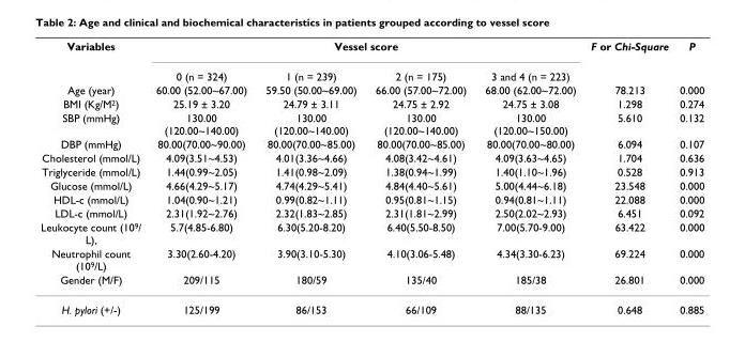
<table><thead><tr><td rowspan="14">Variables Age (year) BMI (Kg/M2) SBP (mmHg) DBP (mmHg) Cholesterol (mmol/L) Triglyceride (mmol/L) Glucose (mmol/L) HDL-c (mmol/L) LDL-c (mmol/L) Leukocyte count (109/ L), Neutrophil count (109/L) Gender (M/F)</td><td colspan="4">Vessel score</td><td rowspan="14">F or Chi-Square 78.213 1.298 5.610 6.094 1.704 0.528 23.548 22.088 6.451 63.422 69.224 26.801</td><td rowspan="14">P 0.000 0.274 0.132 0.107 0.636 0.913 0.000 0.000 0.092 0.000 0.000 0.000</td></tr><tr><td rowspan="13">0 (n = 324) 60.00 (52.00~67.00) 25.19 ± 3.20 130.00 (120.00~140.00) 80.00(70.00~90.00) 4.09(3.51~4.53) 1.44(0.99~2.05) 4.66(4.29~5.17) 1.04(0.90~1.21) 2.31(1.92~2.76) 5.7(4.85-6.80) 3.30(2.60-4.20) 209/115</td><td rowspan="13">1 (n = 239) 59.50 (50.00~69.00) 24.79 ± 3.11 130.00 (120.00~140.00) 80.00(70.00~85.00) 4.01(3.36~4.66) 1.41(0.98~2.09) 4.74(4.29~5.41) 0.99(0.82~1.11) 2.32(1.83~2.85) 6.30(5.20-8.20) 3.90(3.10-5.30) 180/59</td><td rowspan="13">2 (n = 175) 66.00 (57.00~72.00) 24.75 ± 2.92 130.00 (120.00~140.00) 80.00(70.00~85.00) 4.08(3.42~4.61) 1.38(0.94~1.99) 4.84(4.40~5.61) 0.95(0.81~1.15) 2.31(1.81~2.99) 6.40(5.50-8.50) 4.10(3.06-5.48) 135/40</td><td rowspan="13">3 and 4 (n = 223) 68.00 (62.00~72.00) 24.75 ± 3.08 130.00 (120.00~150.00) 80.00(70.00~80.00) 4.09(3.63~4.65) 1.40(1.10~1.96) 5.00(4.44~6.18) 0.94(0.81~1.11) 2.50(2.02~2.93) 7.00(5.70-9.00) 4.34(3.30-6.23) 185/38</td></tr><tr></tr><tr></tr><tr></tr><tr></tr><tr></tr><tr></tr><tr></tr><tr></tr><tr></tr><tr></tr><tr></tr><tr></tr></thead><tbody><tr><td>H. pylori (+/-)</td><td>125/199</td><td>86/153</td><td>66/109</td><td>88/135</td><td>0.648</td><td>0.885</td></tr></tbody></table>